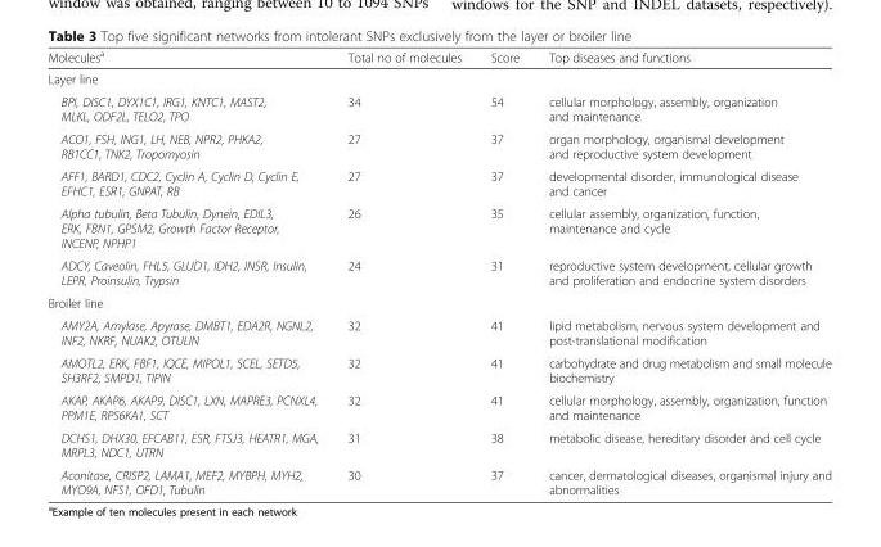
<table><thead><tr><td>Molecules<sup>a</sup></td><td>Total no of molecules</td><td>Score</td><td>Top diseases and functions</td></tr></thead><tbody><tr><td colspan="4">Layer line</td></tr><tr><td>BPI, DISC1, DYX1C1, IRG1, KNTC1, MAST2, MLKL, ODF2L, TELO2, TPO</td><td>34</td><td>54</td><td>cellular morphology, assembly, organization and maintenance</td></tr><tr><td>ACO1, FSH, ING1, LH, NEB, NPR2, PHKA2, RB1CC1, TNK2, Tropomyosin</td><td>27</td><td>37</td><td>organ morphology, organismal development and reproductive system development</td></tr><tr><td>AFF1, BARD1, CDC2, Cyclin A, Cyclin D, Cyclin E, EFHC1, ESR1, GNPAT, RB</td><td>27</td><td>37</td><td>developmental disorder, immunological disease and cancer</td></tr><tr><td>Alpha tubulin, Beta Tubulin, Dynein, EDIL3, ERK, FBN1, GPSM2, Growth Factor Receptor, INCENP, NPHP1</td><td>26</td><td>35</td><td>cellular assembly, organization, function, maintenance and cycle</td></tr><tr><td>ADCY, Caveolin, FHL5, GLUD1, IDH2, INSR, Insulin, LEPR, Proinsulin, Trypsin</td><td>24</td><td>31</td><td>reproductive system development, cellular growth and proliferation and endocrine system disorders</td></tr><tr><td colspan="4">Broiler line</td></tr><tr><td>AMY2A, Amylase, Apyrase, DMBT1, EDA2R, NGNL2, INF2, NKRF, NUAK2, OTULIN</td><td>32</td><td>41</td><td>lipid metabolism, nervous system development and post-translational modification</td></tr><tr><td>AMOTL2, ERK, FBF1, IQCE, MIPOL1, SCEL, SETD5, SH3RF2, SMPD1, TIPIN</td><td>32</td><td>41</td><td>carbohydrate and drug metabolism and small molecule biochemistry</td></tr><tr><td>AKAP, AKAP6, AKAP9, DISC1, LXN, MAPRE3, PCNXL4, PPM1E, RPS6KA1, SCT</td><td>32</td><td>41</td><td>cellular morphology, assembly, organization, function and maintenance</td></tr><tr><td>DCHS1, DHX30, EFCAB11, ESR, FTSJ3, HEATR1, MGA, MRPL3, NDC1, UTRN</td><td>31</td><td>38</td><td>metabolic disease, hereditary disorder and cell cycle</td></tr><tr><td>Aconitase, CRISP2, LAMA1, MEF2, MYBPH, MYH2, MYO9A, NFS1, OFD1, Tubulin</td><td>30</td><td>37</td><td>cancer, dermatological diseases, organismal injury and abnormalities</td></tr></tbody></table>